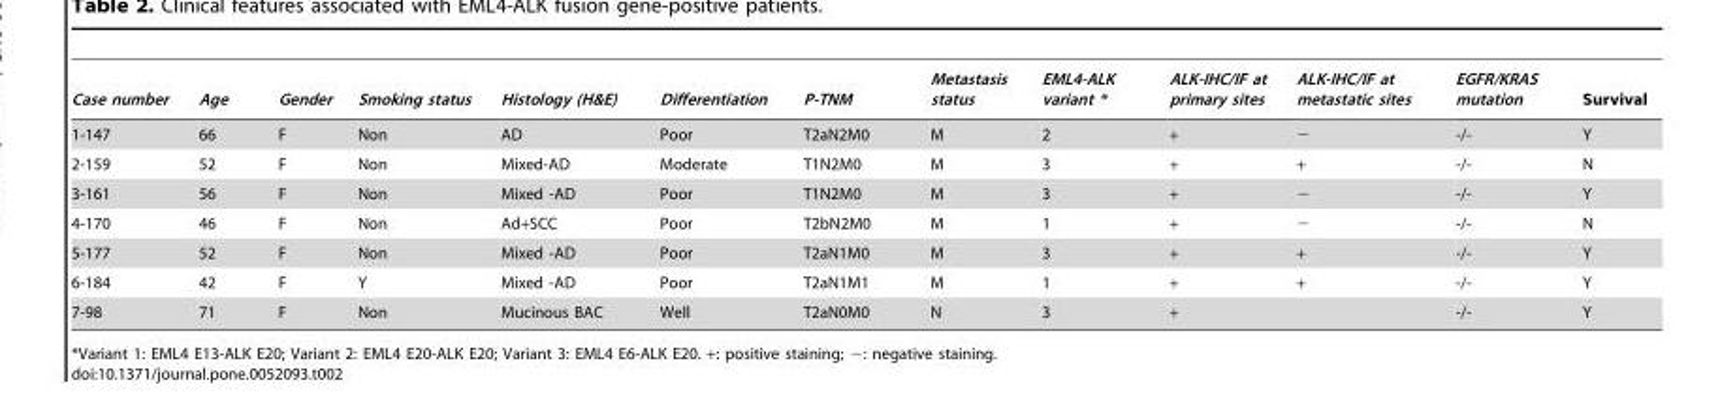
<table><thead><tr><td>Case number</td><td>Age</td><td>Gender</td><td>Smoking status</td><td>Histology (H&amp;E)</td><td>Differentiation</td><td>P-TNM</td><td>Metastasis status</td><td>EML4-ALK variant *</td><td>ALK-IHC/IF at primary sites</td><td>ALK-IHC/IF at metastatic sites</td><td>EGFR/KRAS mutation</td><td>Survival</td></tr></thead><tbody><tr><td>1-147</td><td>66</td><td>F</td><td>Non</td><td>AD</td><td>Poor</td><td>T2aN2M0</td><td>M</td><td>2</td><td>+</td><td>−</td><td>-/-</td><td>Y</td></tr><tr><td>2-159</td><td>52</td><td>F</td><td>Non</td><td>Mixed-AD</td><td>Moderate</td><td>T1N2M0</td><td>M</td><td>3</td><td>+</td><td>+</td><td>-/-</td><td>N</td></tr><tr><td>3-161</td><td>56</td><td>F</td><td>Non</td><td>Mixed -AD</td><td>Poor</td><td>T1N2M0</td><td>M</td><td>3</td><td>+</td><td>−</td><td>-/-</td><td>Y</td></tr><tr><td>4-170</td><td>46</td><td>F</td><td>Non</td><td>Ad+SCC</td><td>Poor</td><td>T2bN2M0</td><td>M</td><td>1</td><td>+</td><td>−</td><td>-/-</td><td>N</td></tr><tr><td>5-177</td><td>52</td><td>F</td><td>Non</td><td>Mixed -AD</td><td>Poor</td><td>T2aN1M0</td><td>M</td><td>3</td><td>+</td><td>+</td><td>-/-</td><td>Y</td></tr><tr><td>6-184</td><td>42</td><td>F</td><td>Y</td><td>Mixed -AD</td><td>Poor</td><td>T2aN1M1</td><td>M</td><td>1</td><td>+</td><td>+</td><td>-/-</td><td>Y</td></tr><tr><td>7-98</td><td>71</td><td>F</td><td>Non</td><td>Mucinous BAC</td><td>Well</td><td>T2aN0M0</td><td>N</td><td>3</td><td>+</td><td></td><td>-/-</td><td>Y</td></tr></tbody></table>